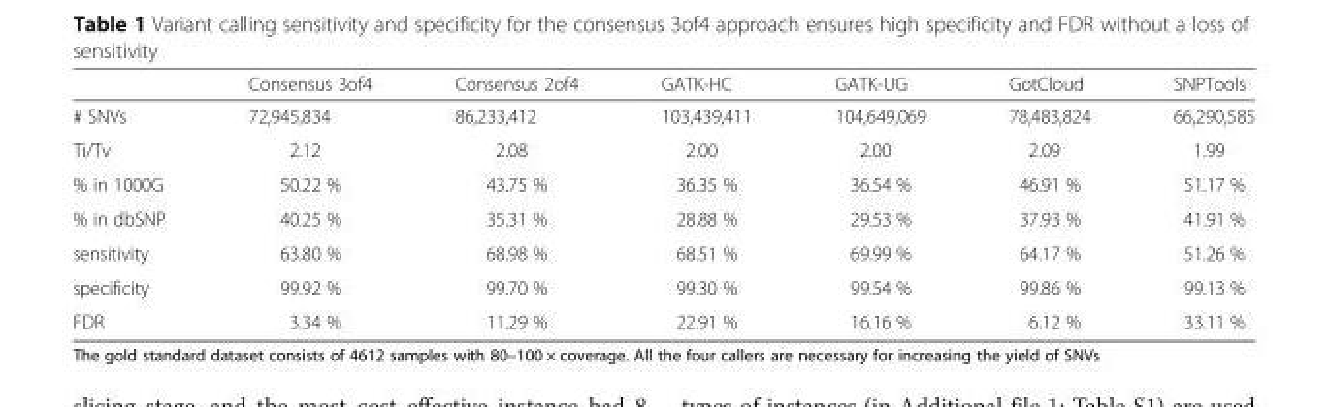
<table><thead><tr><td></td><td>Consensus 3of4</td><td>Consensus 2of4</td><td>GATK-HC</td><td>GATK-UG</td><td>GotCloud</td><td>SNPTools</td></tr></thead><tbody><tr><td># SNVs</td><td>72,945,834</td><td>86,233,412</td><td>103,439,411</td><td>104,649,069</td><td>78,483,824</td><td>66,290,585</td></tr><tr><td>Ti/Tv</td><td>2.12</td><td>2.08</td><td>2.00</td><td>2.00</td><td>2.09</td><td>1.99</td></tr><tr><td>% in 1000G</td><td>50.22 %</td><td>43.75 %</td><td>36.35 %</td><td>36.54 %</td><td>46.91 %</td><td>51.17 %</td></tr><tr><td>% in dbSNP</td><td>40.25 %</td><td>35.31 %</td><td>28.88 %</td><td>29.53 %</td><td>37.93 %</td><td>41.91 %</td></tr><tr><td>sensitivity</td><td>63.80 %</td><td>68.98 %</td><td>68.51 %</td><td>69.99 %</td><td>64.17 %</td><td>51.26 %</td></tr><tr><td>specificity</td><td>99.92 %</td><td>99.70 %</td><td>99.30 %</td><td>99.54 %</td><td>99.86 %</td><td>99.13 %</td></tr><tr><td>FDR</td><td>3.34 %</td><td>11.29 %</td><td>22.91 %</td><td>16.16 %</td><td>6.12 %</td><td>33.11 %</td></tr></tbody></table>